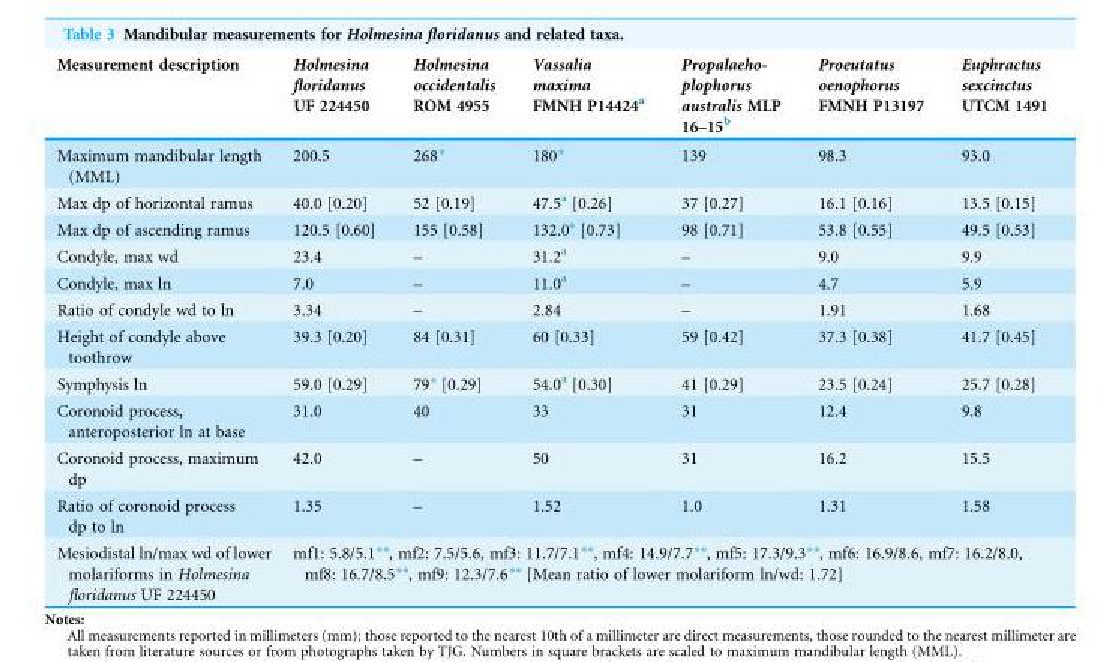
<table><thead><tr><td>Measurement description</td><td>Holmesina floridanus UF 224450</td><td>Holmesina occidentalis ROM 4955</td><td>Vassalia maxima FMNH P14424<sup>a</sup></td><td>Propalaeho- plophorus australis MLP 16–15b</td><td>Proeutatus oenophorus FMNH P13197</td><td>Euphractus sexcinctus UTCM 1491</td></tr></thead><tbody><tr><td>Maximum mandibular length (MML)</td><td>200.5</td><td>268*</td><td>180*</td><td>139</td><td>98.3</td><td>93.0</td></tr><tr><td>Max dp of horizontal ramus</td><td>40.0 [0.20]</td><td>52 [0.19]</td><td>47.5<sup>a</sup> [0.26]</td><td>37 [0.27]</td><td>16.1 [0.16]</td><td>13.5 [0.15]</td></tr><tr><td>Max dp of ascending ramus</td><td>120.5 [0.60]</td><td>155 [0.58]</td><td>132.0<sup>a</sup> [0.73]</td><td>98 [0.71]</td><td>53.8 [0.55]</td><td>49.5 [0.53]</td></tr><tr><td>Condyle, max wd</td><td>23.4</td><td>–</td><td>31.2<sup>a</sup></td><td>–</td><td>9.0</td><td>9.9</td></tr><tr><td>Condyle, max ln</td><td>7.0</td><td>–</td><td>11.0<sup>a</sup></td><td>–</td><td>4.7</td><td>5.9</td></tr><tr><td>Ratio of condyle wd to ln</td><td>3.34</td><td>–</td><td>2.84</td><td>–</td><td>1.91</td><td>1.68</td></tr><tr><td>Height of condyle above toothrow</td><td>39.3 [0.20]</td><td>84 [0.31]</td><td>60 [0.33]</td><td>59 [0.42]</td><td>37.3 [0.38]</td><td>41.7 [0.45]</td></tr><tr><td>Symphysis ln</td><td>59.0 [0.29]</td><td>79* [0.29]</td><td>54.0<sup>a</sup> [0.30]</td><td>41 [0.29]</td><td>23.5 [0.24]</td><td>25.7 [0.28]</td></tr><tr><td>Coronoid process, anteroposterior ln at base</td><td>31.0</td><td>40</td><td>33</td><td>31</td><td>12.4</td><td>9.8</td></tr><tr><td>Coronoid process, maximum dp</td><td>42.0</td><td>–</td><td>50</td><td>31</td><td>16.2</td><td>15.5</td></tr><tr><td>Ratio of coronoid process dp to ln</td><td>1.35</td><td>–</td><td>1.52</td><td>1.0</td><td>1.31</td><td>1.58</td></tr><tr><td>Mesiodistal ln/max wd of lower molariforms in Holmesina floridanus UF 224450</td><td colspan="6">mf1: 5.8/5.1**, mf2: 7.5/5.6, mf3: 11.7/7.1**, mf4: 14.9/7.7**, mf5: 17.3/9.3**, mf6: 16.9/8.6, mf7: 16.2/8.0, mf8: 16.7/8.5**, mf9: 12.3/7.6** [Mean ratio of lower molariform ln/wd: 1.72]</td></tr></tbody></table>